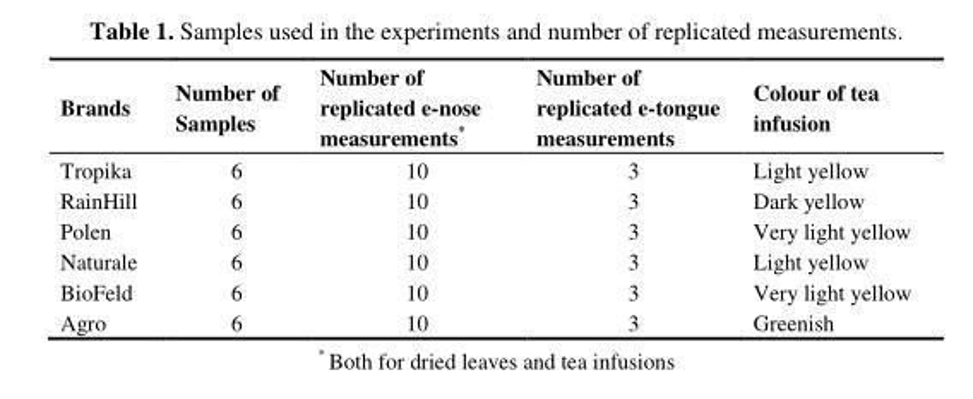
<table><thead><tr><td>Brands</td><td>Number of Samples</td><td>Number of replicated e-nose measurements*</td><td>Number of replicated e-tongue measurements</td><td>Colour of tea infusion</td></tr></thead><tbody><tr><td>Tropika</td><td>6</td><td>10</td><td>3</td><td>Light yellow</td></tr><tr><td>RainHill</td><td>6</td><td>10</td><td>3</td><td>Dark yellow</td></tr><tr><td>Polen</td><td>6</td><td>10</td><td>3</td><td>Very light yellow</td></tr><tr><td>Naturale</td><td>6</td><td>10</td><td>3</td><td>Light yellow</td></tr><tr><td>BioFeld</td><td>6</td><td>10</td><td>3</td><td>Very light yellow</td></tr><tr><td>Agro</td><td>6</td><td>10</td><td>3</td><td>Greenish</td></tr></tbody></table>